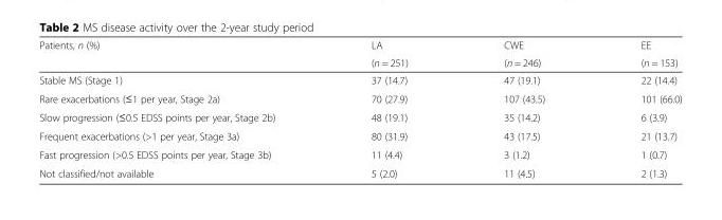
<table><thead><tr><td rowspan="2">Patients, n (%)</td><td rowspan="2">LA (n = 251)</td><td rowspan="2">CWE (n = 246)</td><td rowspan="2">EE (n = 153)</td></tr><tr></tr></thead><tbody><tr><td>Stable MS (Stage 1)</td><td>37 (14.7)</td><td>47 (19.1)</td><td>22 (14.4)</td></tr><tr><td>Rare exacerbations (≤1 per year, Stage 2a)</td><td>70 (27.9)</td><td>107 (43.5)</td><td>101 (66.0)</td></tr><tr><td>Slow progression (≤0.5 EDSS points per year, Stage 2b)</td><td>48 (19.1)</td><td>35 (14.2)</td><td>6 (3.9)</td></tr><tr><td>Frequent exacerbations (&gt;1 per year, Stage 3a)</td><td>80 (31.9)</td><td>43 (17.5)</td><td>21 (13.7)</td></tr><tr><td>Fast progression (&gt;0.5 EDSS points per year, Stage 3b)</td><td>11 (4.4)</td><td>3 (1.2)</td><td>1 (0.7)</td></tr><tr><td>Not classified/not available</td><td>5 (2.0)</td><td>11 (4.5)</td><td>2 (1.3)</td></tr></tbody></table>